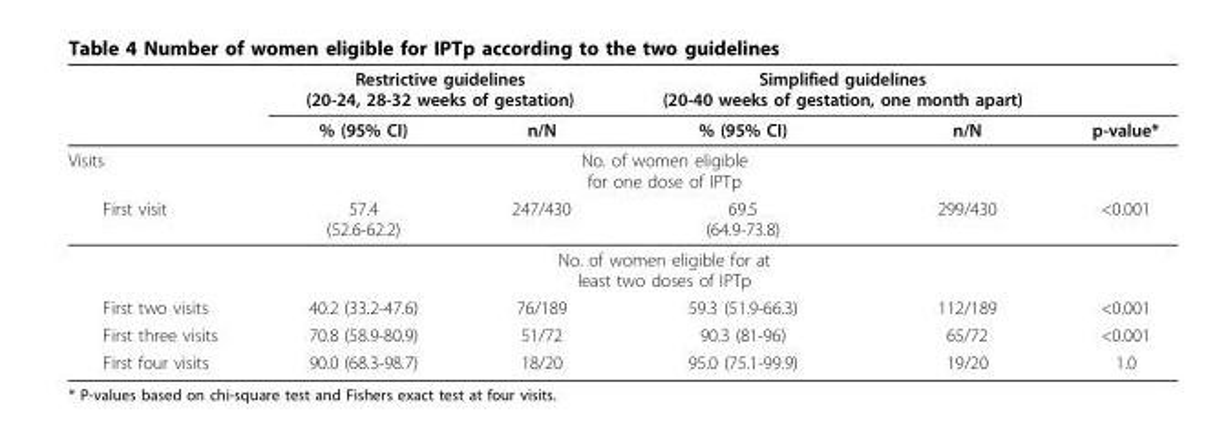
<table><thead><tr><td rowspan="2"></td><td colspan="2">Restrictive guidelines (20-24, 28-32 weeks of gestation)</td><td colspan="2">Simplified guidelines (20-40 weeks of gestation, one month apart)</td><td rowspan="2">p-value*</td></tr><tr><td>% (95% CI)</td><td>n/N</td><td>% (95% CI)</td><td>n/N</td></tr></thead><tbody><tr><td>Visits</td><td colspan="4">No. of women eligible for one dose of IPTp</td><td></td></tr><tr><td rowspan="2">First visit</td><td>57.4 (52.6-62.2)</td><td>247/430</td><td>69.5 (64.9-73.8)</td><td>299/430</td><td>&lt;0.001</td></tr><tr><td colspan="4">No. of women eligible for at least two doses of IPTp</td><td></td></tr><tr><td>First two visits</td><td>40.2 (33.2-47.6)</td><td>76/189</td><td>59.3 (51.9-66.3)</td><td>112/189</td><td>&lt;0.001</td></tr><tr><td>First three visits</td><td>70.8 (58.9-80.9)</td><td>51/72</td><td>90.3 (81-96)</td><td>65/72</td><td>&lt;0.001</td></tr><tr><td>First four visits</td><td>90.0 (68.3-98.7)</td><td>18/20</td><td>95.0 (75.1-99.9)</td><td>19/20</td><td>1.0</td></tr></tbody></table>